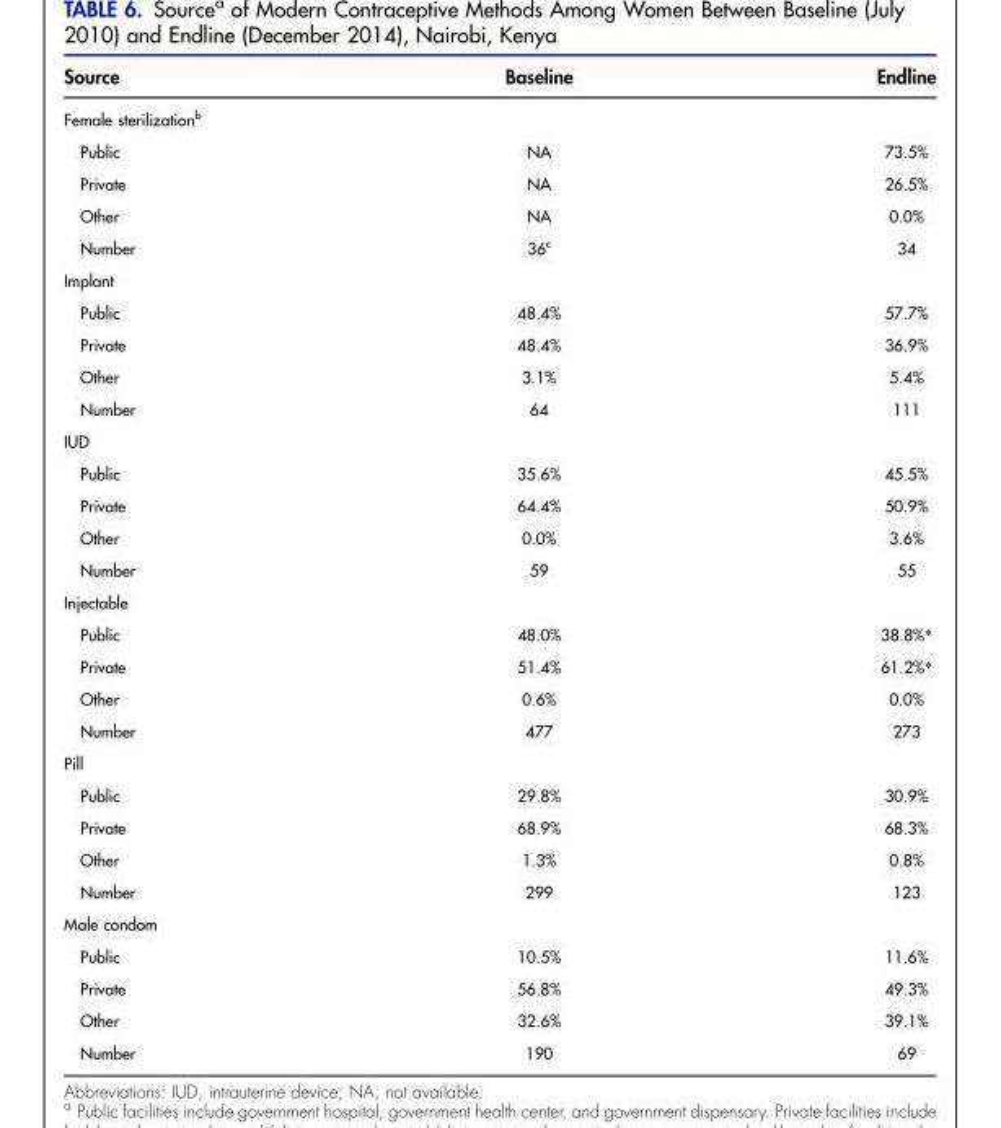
<table><thead><tr><td>Source</td><td>Baseline</td><td>Endline</td></tr></thead><tbody><tr><td colspan="3">Female sterilization<sup>b</sup></td></tr><tr><td>Public</td><td>NA</td><td>73.5%</td></tr><tr><td>Private</td><td>NA</td><td>26.5%</td></tr><tr><td>Other</td><td>NA</td><td>0.0%</td></tr><tr><td>Number</td><td>36<sup>c</sup></td><td>34</td></tr><tr><td colspan="3">Implant</td></tr><tr><td>Public</td><td>48.4%</td><td>57.7%</td></tr><tr><td>Private</td><td>48.4%</td><td>36.9%</td></tr><tr><td>Other</td><td>3.1%</td><td>5.4%</td></tr><tr><td>Number</td><td>64</td><td>111</td></tr><tr><td colspan="3">IUD</td></tr><tr><td>Public</td><td>35.6%</td><td>45.5%</td></tr><tr><td>Private</td><td>64.4%</td><td>50.9%</td></tr><tr><td>Other</td><td>0.0%</td><td>3.6%</td></tr><tr><td>Number</td><td>59</td><td>55</td></tr><tr><td colspan="3">Injectable</td></tr><tr><td>Public</td><td>48.0%</td><td>38.8%*</td></tr><tr><td>Private</td><td>51.4%</td><td>61.2%*</td></tr><tr><td>Other</td><td>0.6%</td><td>0.0%</td></tr><tr><td>Number</td><td>477</td><td>273</td></tr><tr><td colspan="3">Pill</td></tr><tr><td>Public</td><td>29.8%</td><td>30.9%</td></tr><tr><td>Private</td><td>68.9%</td><td>68.3%</td></tr><tr><td>Other</td><td>1.3%</td><td>0.8%</td></tr><tr><td>Number</td><td>299</td><td>123</td></tr><tr><td colspan="3">Male condom</td></tr><tr><td>Public</td><td>10.5%</td><td>11.6%</td></tr><tr><td>Private</td><td>56.8%</td><td>49.3%</td></tr><tr><td>Other</td><td>32.6%</td><td>39.1%</td></tr><tr><td>Number</td><td>190</td><td>69</td></tr></tbody></table>